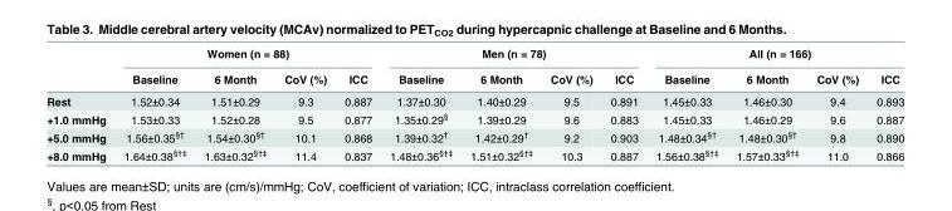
<table><thead><tr><td rowspan="2"></td><td colspan="4">Women (n = 88)</td><td colspan="4">Men (n = 78)</td><td colspan="4">All (n = 166)</td></tr><tr><td>Baseline</td><td>6 Month</td><td>CoV (%)</td><td>ICC</td><td>Baseline</td><td>6 Month</td><td>CoV (%)</td><td>ICC</td><td>Baseline</td><td>6 Month</td><td>CoV (%)</td><td>ICC</td></tr></thead><tbody><tr><td>Rest</td><td>1.52±0.34</td><td>1.51±0.29</td><td>9.3</td><td>0.887</td><td>1.37±0.30</td><td>1.40±0.29</td><td>9.5</td><td>0.891</td><td>1.45±0.33</td><td>1.46±0.30</td><td>9.4</td><td>0.893</td></tr><tr><td>+1.0 mmHg</td><td>1.53±0.33</td><td>1.52±0.28</td><td>9.5</td><td>0.877</td><td>1.35±0.29<sup>§</sup></td><td>1.39±0.29</td><td>9.6</td><td>0.883</td><td>1.45±0.33</td><td>1.46±0.29</td><td>9.6</td><td>0.887</td></tr><tr><td>+5.0 mmHg</td><td>1.56±0.35<sup>§†</sup></td><td>1.54±0.30<sup>§†</sup></td><td>10.1</td><td>0.868</td><td>1.39±0.32<sup>†</sup></td><td>1.42±0.29<sup>†</sup></td><td>9.2</td><td>0.903</td><td>1.48±0.34<sup>§†</sup></td><td>1.48±0.30<sup>§†</sup></td><td>9.8</td><td>0.890</td></tr><tr><td>+8.0 mmHg</td><td>1.64±0.38<sup>§†‡</sup></td><td>1.63±0.32<sup>§†‡</sup></td><td>11.4</td><td>0.837</td><td>1.48±0.36<sup>§†‡</sup></td><td>1.51±0.32<sup>§†‡</sup></td><td>10.3</td><td>0.887</td><td>1.56±0.38<sup>§†‡</sup></td><td>1.57±0.33<sup>§†‡</sup></td><td>11.0</td><td>0.866</td></tr></tbody></table>